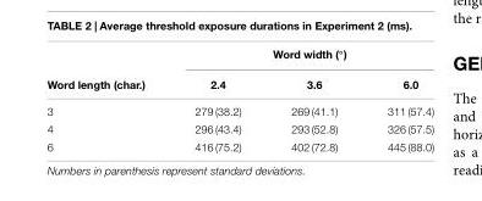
<table><thead><tr><td rowspan="2">Word length (char.)</td><td colspan="3">Word width (◦)</td></tr><tr><td>2.4</td><td>3.6</td><td>6.0</td></tr></thead><tbody><tr><td>3</td><td>279 (38.2)</td><td>269 (41.1)</td><td>311 (57.4)</td></tr><tr><td>4</td><td>296 (43.4)</td><td>293 (52.8)</td><td>326 (57.5)</td></tr><tr><td>6</td><td>416 (75.2)</td><td>402 (72.8)</td><td>445 (88.0)</td></tr></tbody></table>